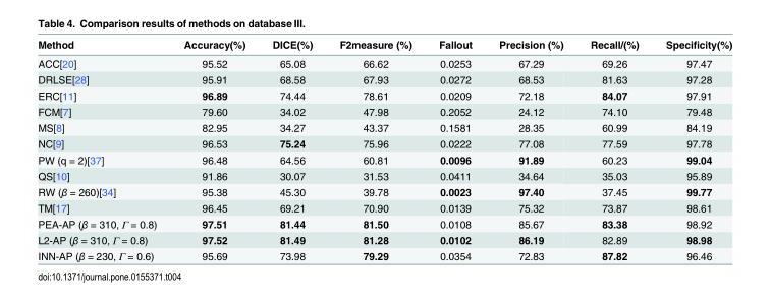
<table><thead><tr><td>Method</td><td>Accuracy(%)</td><td>DICE(%)</td><td>F2measure (%)</td><td>Fallout</td><td>Precision (%)</td><td>Recall/(%)</td><td>Specificity(%)</td></tr></thead><tbody><tr><td>ACC[20]</td><td>95.52</td><td>65.08</td><td>66.62</td><td>0.0253</td><td>67.29</td><td>69.26</td><td>97.47</td></tr><tr><td>DRLSE[28]</td><td>95.91</td><td>68.58</td><td>67.93</td><td>0.0272</td><td>68.53</td><td>81.63</td><td>97.28</td></tr><tr><td>ERC[11]</td><td>96.89</td><td>74.44</td><td>78.61</td><td>0.0209</td><td>72.18</td><td>84.07</td><td>97.91</td></tr><tr><td>FCM[7]</td><td>79.60</td><td>34.02</td><td>47.98</td><td>0.2052</td><td>24.12</td><td>74.10</td><td>79.48</td></tr><tr><td>MS[8]</td><td>82.95</td><td>34.27</td><td>43.37</td><td>0.1581</td><td>28.35</td><td>60.99</td><td>84.19</td></tr><tr><td>NC[9]</td><td>96.53</td><td>75.24</td><td>75.96</td><td>0.0222</td><td>77.08</td><td>77.59</td><td>97.78</td></tr><tr><td>PW (q = 2)[37]</td><td>96.48</td><td>64.56</td><td>60.81</td><td>0.0096</td><td>91.89</td><td>60.23</td><td>99.04</td></tr><tr><td>QS[10]</td><td>91.86</td><td>30.07</td><td>31.53</td><td>0.0411</td><td>34.64</td><td>35.03</td><td>95.89</td></tr><tr><td>RW (β = 260)[34]</td><td>95.38</td><td>45.30</td><td>39.78</td><td>0.0023</td><td>97.40</td><td>37.45</td><td>99.77</td></tr><tr><td>TM[17]</td><td>96.45</td><td>69.21</td><td>70.90</td><td>0.0139</td><td>75.32</td><td>73.87</td><td>98.61</td></tr><tr><td>PEA-AP (β = 310, Γ = 0.8)</td><td>97.51</td><td>81.44</td><td>81.50</td><td>0.0108</td><td>85.67</td><td>83.38</td><td>98.92</td></tr><tr><td>L2-AP (β = 310, Γ = 0.8)</td><td>97.52</td><td>81.49</td><td>81.28</td><td>0.0102</td><td>86.19</td><td>82.89</td><td>98.98</td></tr><tr><td>INN-AP (β = 230, Γ = 0.6)</td><td>95.69</td><td>73.98</td><td>79.29</td><td>0.0354</td><td>72.83</td><td>87.82</td><td>96.46</td></tr></tbody></table>